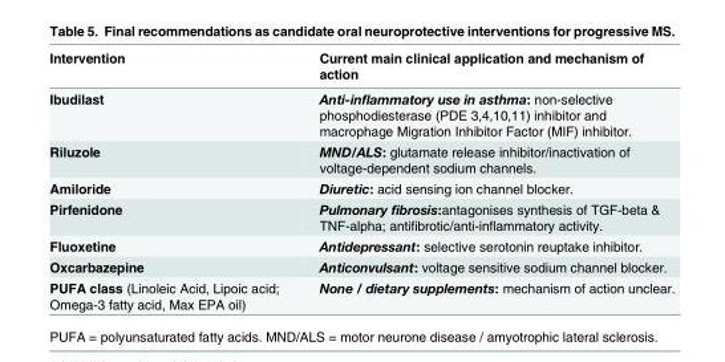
<table><thead><tr><td>Intervention</td><td>Current main clinical application and mechanism of action</td></tr></thead><tbody><tr><td>Ibudilast</td><td>Anti-inflammatory use in asthma: non-selective phosphodiesterase (PDE 3,4,10,11) inhibitor and macrophage Migration Inhibitor Factor (MIF) inhibitor.</td></tr><tr><td>Riluzole</td><td>MND/ALS: glutamate release inhibitor/inactivation of voltage-dependent sodium channels.</td></tr><tr><td>Amiloride</td><td>Diuretic: acid sensing ion channel blocker.</td></tr><tr><td>Pirfenidone</td><td>Pulmonary fibrosis:antagonises synthesis of TGF-beta &amp; TNF-alpha; antifibrotic/anti-inflammatory activity.</td></tr><tr><td>Fluoxetine</td><td>Antidepressant: selective serotonin reuptake inhibitor.</td></tr><tr><td>Oxcarbazepine</td><td>Anticonvulsant: voltage sensitive sodium channel blocker.</td></tr><tr><td>PUFA class (Linoleic Acid, Lipoic acid; Omega-3 fatty acid, Max EPA oil)</td><td>None / dietary supplements: mechanism of action unclear.</td></tr></tbody></table>